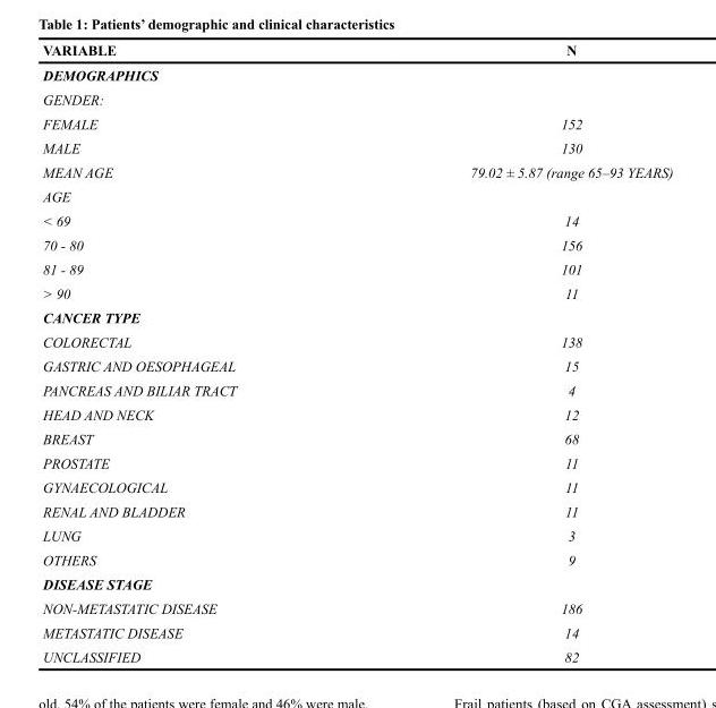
<table><thead><tr><td>VARIABLE</td><td>N</td></tr></thead><tbody><tr><td colspan="2">DEMOGRAPHICS</td></tr><tr><td colspan="2">GENDER:</td></tr><tr><td>FEMALE</td><td>152</td></tr><tr><td>MALE</td><td>130</td></tr><tr><td>MEAN AGE</td><td>79.02 ± 5.87 (range 65–93 YEARS)</td></tr><tr><td colspan="2">AGE</td></tr><tr><td>&lt; 69</td><td>14</td></tr><tr><td>70 - 80</td><td>156</td></tr><tr><td>81 - 89</td><td>101</td></tr><tr><td>&gt; 90</td><td>11</td></tr><tr><td colspan="2">CANCER TYPE</td></tr><tr><td>COLORECTAL</td><td>138</td></tr><tr><td>GASTRIC AND OESOPHAGEAL</td><td>15</td></tr><tr><td>PANCREAS AND BILIAR TRACT</td><td>4</td></tr><tr><td>HEAD AND NECK</td><td>12</td></tr><tr><td>BREAST</td><td>68</td></tr><tr><td>PROSTATE</td><td>11</td></tr><tr><td>GYNAECOLOGICAL</td><td>11</td></tr><tr><td>RENAL AND BLADDER</td><td>11</td></tr><tr><td>LUNG</td><td>3</td></tr><tr><td>OTHERS</td><td>9</td></tr><tr><td colspan="2">DISEASE STAGE</td></tr><tr><td>NON-METASTATIC DISEASE</td><td>186</td></tr><tr><td>METASTATIC DISEASE</td><td>14</td></tr><tr><td>UNCLASSIFIED</td><td>82</td></tr></tbody></table>